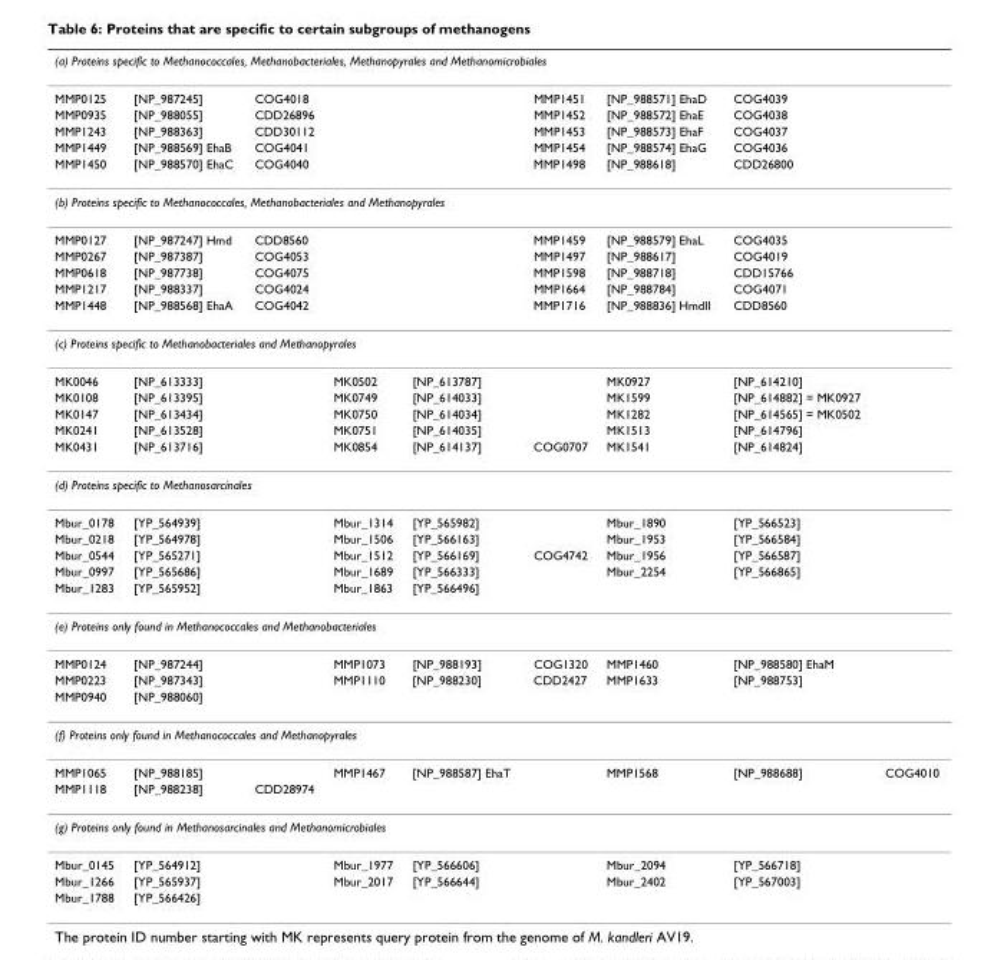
<table><thead><tr><td colspan="9">(a) Proteins specific to Methanococcales, Methanobacteriales, Methanopyrales and Methanomicrobiales</td></tr><tr><td>MMP0125</td><td>[NP_987245]</td><td>COG4018</td><td></td><td></td><td>MMP1451</td><td>[NP_988571] EhaD</td><td>COG4039</td><td></td></tr></thead><tbody><tr><td>MMP0935</td><td>[NP_988055]</td><td>CDD26896</td><td></td><td></td><td>MMP1452</td><td>[NP_988572] EhaE</td><td>COG4038</td><td></td></tr><tr><td>MMP1243</td><td>[NP_988363]</td><td>CDD30112</td><td></td><td></td><td>MMP1453</td><td>[NP_988573] EhaF</td><td>COG4037</td><td></td></tr><tr><td>MMP1449</td><td>[NP_988569] EhaB</td><td>COG4041</td><td></td><td></td><td>MMP1454</td><td>[NP_988574] EhaG</td><td>COG4036</td><td></td></tr><tr><td>MMP1450</td><td>[NP_988570] EhaC</td><td>COG4040</td><td></td><td></td><td>MMP1498</td><td>[NP_988618]</td><td>CDD26800</td><td></td></tr><tr><td colspan="9">(b) Proteins specific to Methanococcales, Methanobacteriales and Methanopyrales</td></tr><tr><td>MMP0127</td><td>[NP_987247] Hmd</td><td>CDD8560</td><td></td><td></td><td>MMP1459</td><td>[NP_988579] EhaL</td><td>COG4035</td><td></td></tr><tr><td>MMP0267</td><td>[NP_987387]</td><td>COG4053</td><td></td><td></td><td>MMP1497</td><td>[NP_988617]</td><td>COG4019</td><td></td></tr><tr><td>MMP0618</td><td>[NP_987738]</td><td>COG4075</td><td></td><td></td><td>MMP1598</td><td>[NP_988718]</td><td>CDD15766</td><td></td></tr><tr><td>MMP1217</td><td>[NP_988337]</td><td>COG4024</td><td></td><td></td><td>MMP1664</td><td>[NP_988784]</td><td>COG4071</td><td></td></tr><tr><td>MMP1448</td><td>[NP_988568] EhaA</td><td>COG4042</td><td></td><td></td><td>MMP1716</td><td>[NP_988836] HmdII</td><td>CDD8560</td><td></td></tr><tr><td colspan="9">(c) Proteins specific to Methanobacteriales and Methanopyrales</td></tr><tr><td>MK0046</td><td>[NP_613333]</td><td></td><td>MK0502</td><td>[NP_613787]</td><td></td><td>MK0927</td><td>[NP_614210]</td><td></td></tr><tr><td>MK0108</td><td>[NP_613395]</td><td></td><td>MK0749</td><td>[NP_614033]</td><td></td><td>MK1599</td><td>[NP_614882] = MK0927</td><td></td></tr><tr><td>MK0147</td><td>[NP_613434]</td><td></td><td>MK0750</td><td>[NP_614034]</td><td></td><td>MK1282</td><td>[NP_614565] = MK0502</td><td></td></tr><tr><td>MK0241</td><td>[NP_613528]</td><td></td><td>MK0751</td><td>[NP_614035]</td><td></td><td>MK1513</td><td>[NP_614796]</td><td></td></tr><tr><td>MK0431</td><td>[NP_613716]</td><td></td><td>MK0854</td><td>[NP_614137]</td><td>COG0707</td><td>MK1541</td><td>[NP_614824]</td><td></td></tr><tr><td colspan="9">(d) Proteins specific to Methanosarcinales</td></tr><tr><td>Mbur_0178</td><td>[YP_564939]</td><td></td><td>Mbur_1314</td><td>[YP_565982]</td><td></td><td>Mbur_1890</td><td>[YP_566523]</td><td></td></tr><tr><td>Mbur_0218</td><td>[YP_564978]</td><td></td><td>Mbur_1506</td><td>[YP_566163]</td><td></td><td>Mbur_1953</td><td>[YP_566584]</td><td></td></tr><tr><td>Mbur_0544</td><td>[YP_565271]</td><td></td><td>Mbur_1512</td><td>[YP_566169]</td><td>COG4742</td><td>Mbur_1956</td><td>[YP_566587]</td><td></td></tr><tr><td>Mbur_0997</td><td>[YP_565686]</td><td></td><td>Mbur_1689</td><td>[YP_566333]</td><td></td><td>Mbur_2254</td><td>[YP_566865]</td><td></td></tr><tr><td>Mbur_1283</td><td>[YP_565952]</td><td></td><td>Mbur_1863</td><td>[YP_566496]</td><td></td><td></td><td></td><td></td></tr><tr><td colspan="9">(e) Proteins only found in Methanococcales and Methanobacteriales</td></tr><tr><td>MMP0124</td><td>[NP_987244]</td><td></td><td>MMP1073</td><td>[NP_988193]</td><td>COG1320</td><td>MMP1460</td><td>[NP_988580] EhaM</td><td></td></tr><tr><td>MMP0223</td><td>[NP_987343]</td><td></td><td>MMP1110</td><td>[NP_988230]</td><td>CDD2427</td><td>MMP1633</td><td>[NP_988753]</td><td></td></tr><tr><td>MMP0940</td><td>[NP_988060]</td><td></td><td></td><td></td><td></td><td></td><td></td><td></td></tr><tr><td colspan="9">(f) Proteins only found in Methanococcales and Methanopyrales</td></tr><tr><td>MMP1065</td><td>[NP_988185]</td><td></td><td>MMP1467</td><td>[NP_988587] EhaT</td><td></td><td>MMP1568</td><td>[NP_988688]</td><td>COG4010</td></tr><tr><td>MMP1118</td><td>[NP_988238]</td><td>CDD28974</td><td></td><td></td><td></td><td></td><td></td><td></td></tr><tr><td colspan="9">(g) Proteins only found in Methanosarcinales and Methanomicrobiales</td></tr><tr><td>Mbur_0145</td><td>[YP_564912]</td><td></td><td>Mbur_1977</td><td>[YP_566606]</td><td></td><td>Mbur_2094</td><td>[YP_566718]</td><td></td></tr><tr><td>Mbur_1266</td><td>[YP_565937]</td><td></td><td>Mbur_2017</td><td>[YP_566644]</td><td></td><td>Mbur_2402</td><td>[YP_567003]</td><td></td></tr><tr><td>Mbur_1788</td><td>[YP_566426]</td><td></td><td></td><td></td><td></td><td></td><td></td><td></td></tr></tbody></table>